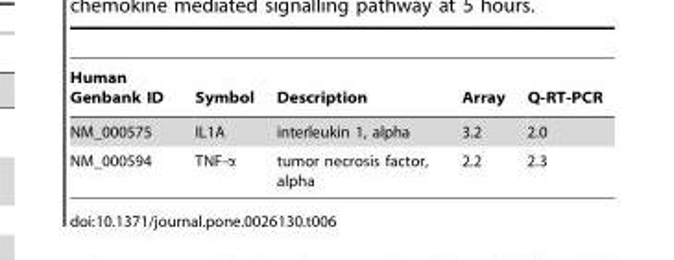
<table><thead><tr><td>Human Genbank ID</td><td>Symbol</td><td>Description</td><td>Array</td><td>Q-RT-PCR</td></tr></thead><tbody><tr><td>NM_000575</td><td>IL1A</td><td>interleukin 1, alpha</td><td>3.2</td><td>2.0</td></tr><tr><td>NM_000594</td><td>TNF-α</td><td>tumor necrosis factor, alpha</td><td>2.2</td><td>2.3</td></tr></tbody></table>